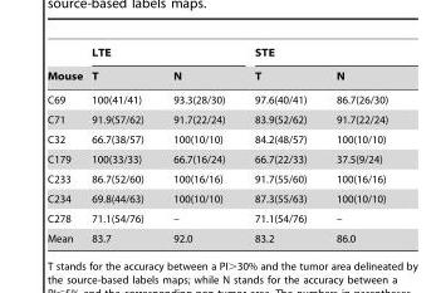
<table><thead><tr><td rowspan="2">Mouse</td><td colspan="2">LTE</td><td colspan="2">STE</td></tr><tr><td>T</td><td>N</td><td>T</td><td>N</td></tr></thead><tbody><tr><td>C69</td><td>100(41/41)</td><td>93.3(28/30)</td><td>97.6(40/41)</td><td>86.7(26/30)</td></tr><tr><td>C71</td><td>91.9(57/62)</td><td>91.7(22/24)</td><td>83.9(52/62)</td><td>91.7(22/24)</td></tr><tr><td>C32</td><td>66.7(38/57)</td><td>100(10/10)</td><td>84.2(48/57)</td><td>100(10/10)</td></tr><tr><td>C179</td><td>100(33/33)</td><td>66.7(16/24)</td><td>66.7(22/33)</td><td>37.5(9/24)</td></tr><tr><td>C233</td><td>86.7(52/60)</td><td>100(16/16)</td><td>91.7(55/60)</td><td>100(16/16)</td></tr><tr><td>C234</td><td>69.8(44/63)</td><td>100(10/10)</td><td>87.3(55/63)</td><td>100(10/10)</td></tr><tr><td>C278</td><td>71.1(54/76)</td><td>–</td><td>71.1(54/76)</td><td>–</td></tr><tr><td>Mean</td><td>83.7</td><td>92.0</td><td>83.2</td><td>86.0</td></tr></tbody></table>